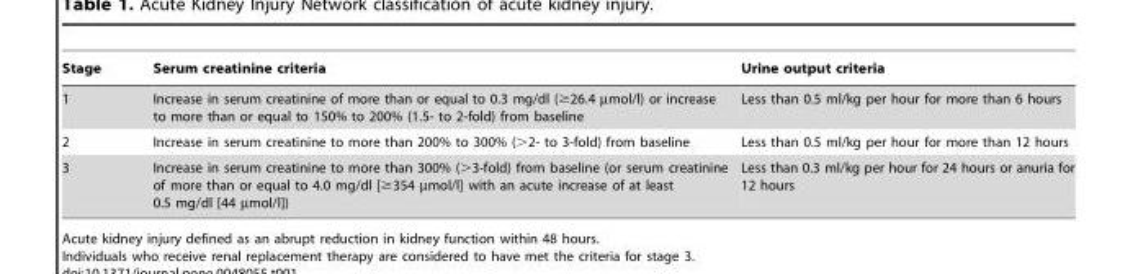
<table><thead><tr><td>Stage</td><td>Serum creatinine criteria</td><td>Urine output criteria</td></tr></thead><tbody><tr><td>1</td><td>Increase in serum creatinine of more than or equal to 0.3 mg/dl (≥26.4 µmol/l) or increase to more than or equal to 150% to 200% (1.5- to 2-fold) from baseline</td><td>Less than 0.5 ml/kg per hour for more than 6 hours</td></tr><tr><td>2</td><td>Increase in serum creatinine to more than 200% to 300% (&gt;2- to 3-fold) from baseline</td><td>Less than 0.5 ml/kg per hour for more than 12 hours</td></tr><tr><td>3</td><td>Increase in serum creatinine to more than 300% (&gt;3-fold) from baseline (or serum creatinine of more than or equal to 4.0 mg/dl [≥354 µmol/l] with an acute increase of at least 0.5 mg/dl [44 µmol/l])</td><td>Less than 0.3 ml/kg per hour for 24 hours or anuria for 12 hours</td></tr></tbody></table>